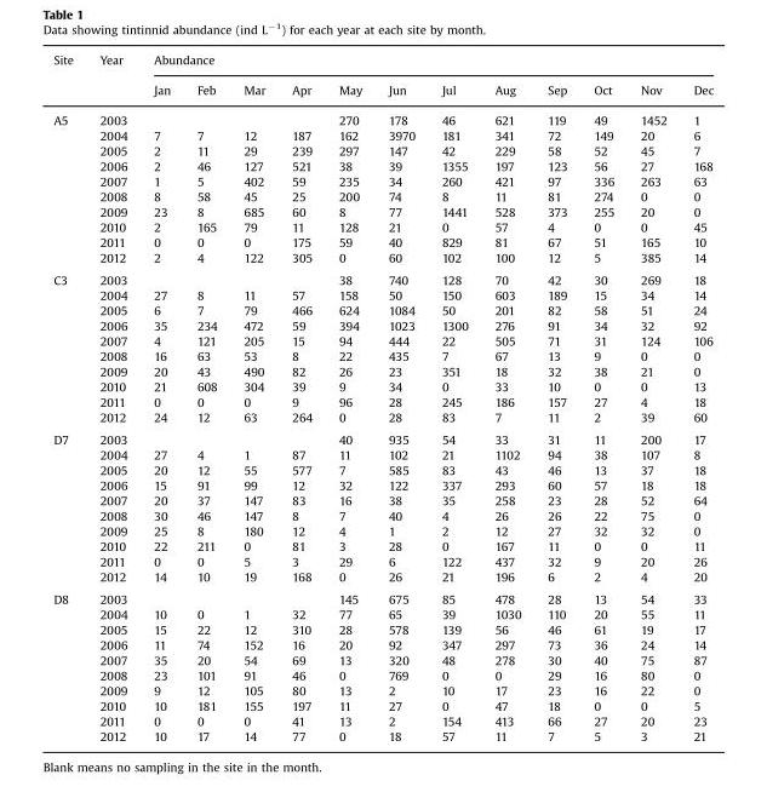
<table><thead><tr><td rowspan="2">Site</td><td rowspan="2">Year</td><td colspan="12">Abundance</td></tr><tr><td>Jan</td><td>Feb</td><td>Mar</td><td>Apr</td><td>May</td><td>Jun</td><td>Jul</td><td>Aug</td><td>Sep</td><td>Oct</td><td>Nov</td><td>Dec</td></tr></thead><tbody><tr><td rowspan="10">A5</td><td>2003</td><td></td><td></td><td></td><td></td><td>270</td><td>178</td><td>46</td><td>621</td><td>119</td><td>49</td><td>1452</td><td>1</td></tr><tr><td>2004</td><td>7</td><td>7</td><td>12</td><td>187</td><td>162</td><td>3970</td><td>181</td><td>341</td><td>72</td><td>149</td><td>20</td><td>6</td></tr><tr><td>2005</td><td>2</td><td>11</td><td>29</td><td>239</td><td>297</td><td>147</td><td>42</td><td>229</td><td>58</td><td>52</td><td>45</td><td>7</td></tr><tr><td>2006</td><td>2</td><td>46</td><td>127</td><td>521</td><td>38</td><td>39</td><td>1355</td><td>197</td><td>123</td><td>56</td><td>27</td><td>168</td></tr><tr><td>2007</td><td>1</td><td>5</td><td>402</td><td>59</td><td>235</td><td>34</td><td>260</td><td>421</td><td>97</td><td>336</td><td>263</td><td>63</td></tr><tr><td>2008</td><td>8</td><td>58</td><td>45</td><td>25</td><td>200</td><td>74</td><td>8</td><td>11</td><td>81</td><td>274</td><td>0</td><td>0</td></tr><tr><td>2009</td><td>23</td><td>8</td><td>685</td><td>60</td><td>8</td><td>77</td><td>1441</td><td>528</td><td>373</td><td>255</td><td>20</td><td>0</td></tr><tr><td>2010</td><td>2</td><td>165</td><td>79</td><td>11</td><td>128</td><td>21</td><td>0</td><td>57</td><td>4</td><td>0</td><td>0</td><td>45</td></tr><tr><td>2011</td><td>0</td><td>0</td><td>0</td><td>175</td><td>59</td><td>40</td><td>829</td><td>81</td><td>67</td><td>51</td><td>165</td><td>10</td></tr><tr><td>2012</td><td>2</td><td>4</td><td>122</td><td>305</td><td>0</td><td>60</td><td>102</td><td>100</td><td>12</td><td>5</td><td>385</td><td>14</td></tr><tr><td rowspan="10">C3</td><td>2003</td><td></td><td></td><td></td><td></td><td>38</td><td>740</td><td>128</td><td>70</td><td>42</td><td>30</td><td>269</td><td>18</td></tr><tr><td>2004</td><td>27</td><td>8</td><td>11</td><td>57</td><td>158</td><td>50</td><td>150</td><td>603</td><td>189</td><td>15</td><td>34</td><td>14</td></tr><tr><td>2005</td><td>6</td><td>7</td><td>79</td><td>466</td><td>624</td><td>1084</td><td>50</td><td>201</td><td>82</td><td>58</td><td>51</td><td>24</td></tr><tr><td>2006</td><td>35</td><td>234</td><td>472</td><td>59</td><td>394</td><td>1023</td><td>1300</td><td>276</td><td>91</td><td>34</td><td>32</td><td>92</td></tr><tr><td>2007</td><td>4</td><td>121</td><td>205</td><td>15</td><td>94</td><td>444</td><td>22</td><td>505</td><td>71</td><td>31</td><td>124</td><td>106</td></tr><tr><td>2008</td><td>16</td><td>63</td><td>53</td><td>8</td><td>22</td><td>435</td><td>7</td><td>67</td><td>13</td><td>9</td><td>0</td><td>0</td></tr><tr><td>2009</td><td>20</td><td>43</td><td>490</td><td>82</td><td>26</td><td>23</td><td>351</td><td>18</td><td>32</td><td>38</td><td>21</td><td>0</td></tr><tr><td>2010</td><td>21</td><td>608</td><td>304</td><td>39</td><td>9</td><td>34</td><td>0</td><td>33</td><td>10</td><td>0</td><td>0</td><td>13</td></tr><tr><td>2011</td><td>0</td><td>0</td><td>0</td><td>9</td><td>96</td><td>28</td><td>245</td><td>186</td><td>157</td><td>27</td><td>4</td><td>18</td></tr><tr><td>2012</td><td>24</td><td>12</td><td>63</td><td>264</td><td>0</td><td>28</td><td>83</td><td>7</td><td>11</td><td>2</td><td>39</td><td>60</td></tr><tr><td rowspan="10">D7</td><td>2003</td><td></td><td></td><td></td><td></td><td>40</td><td>935</td><td>54</td><td>33</td><td>31</td><td>11</td><td>200</td><td>17</td></tr><tr><td>2004</td><td>27</td><td>4</td><td>1</td><td>87</td><td>11</td><td>102</td><td>21</td><td>1102</td><td>94</td><td>38</td><td>107</td><td>8</td></tr><tr><td>2005</td><td>20</td><td>12</td><td>55</td><td>577</td><td>7</td><td>585</td><td>83</td><td>43</td><td>46</td><td>13</td><td>37</td><td>18</td></tr><tr><td>2006</td><td>15</td><td>91</td><td>99</td><td>12</td><td>32</td><td>122</td><td>337</td><td>293</td><td>60</td><td>57</td><td>18</td><td>18</td></tr><tr><td>2007</td><td>20</td><td>37</td><td>147</td><td>83</td><td>16</td><td>38</td><td>35</td><td>258</td><td>23</td><td>28</td><td>52</td><td>64</td></tr><tr><td>2008</td><td>30</td><td>46</td><td>147</td><td>8</td><td>7</td><td>40</td><td>4</td><td>26</td><td>26</td><td>22</td><td>75</td><td>0</td></tr><tr><td>2009</td><td>25</td><td>8</td><td>180</td><td>12</td><td>4</td><td>1</td><td>2</td><td>12</td><td>27</td><td>32</td><td>32</td><td>0</td></tr><tr><td>2010</td><td>22</td><td>211</td><td>0</td><td>81</td><td>3</td><td>28</td><td>0</td><td>167</td><td>11</td><td>0</td><td>0</td><td>11</td></tr><tr><td>2011</td><td>0</td><td>0</td><td>5</td><td>3</td><td>29</td><td>6</td><td>122</td><td>437</td><td>32</td><td>9</td><td>20</td><td>26</td></tr><tr><td>2012</td><td>14</td><td>10</td><td>19</td><td>168</td><td>0</td><td>26</td><td>21</td><td>196</td><td>6</td><td>2</td><td>4</td><td>20</td></tr><tr><td rowspan="10">D8</td><td>2003</td><td></td><td></td><td></td><td></td><td>145</td><td>675</td><td>85</td><td>478</td><td>28</td><td>13</td><td>54</td><td>33</td></tr><tr><td>2004</td><td>10</td><td>0</td><td>1</td><td>32</td><td>77</td><td>65</td><td>39</td><td>1030</td><td>110</td><td>20</td><td>55</td><td>11</td></tr><tr><td>2005</td><td>15</td><td>22</td><td>12</td><td>310</td><td>28</td><td>578</td><td>139</td><td>56</td><td>46</td><td>61</td><td>19</td><td>17</td></tr><tr><td>2006</td><td>11</td><td>74</td><td>152</td><td>16</td><td>20</td><td>92</td><td>347</td><td>297</td><td>73</td><td>36</td><td>24</td><td>14</td></tr><tr><td>2007</td><td>35</td><td>20</td><td>54</td><td>69</td><td>13</td><td>320</td><td>48</td><td>278</td><td>30</td><td>40</td><td>75</td><td>87</td></tr><tr><td>2008</td><td>23</td><td>101</td><td>91</td><td>46</td><td>0</td><td>769</td><td>0</td><td>0</td><td>29</td><td>16</td><td>80</td><td>0</td></tr><tr><td>2009</td><td>9</td><td>12</td><td>105</td><td>80</td><td>13</td><td>2</td><td>10</td><td>17</td><td>23</td><td>16</td><td>22</td><td>0</td></tr><tr><td>2010</td><td>10</td><td>181</td><td>155</td><td>197</td><td>11</td><td>27</td><td>0</td><td>47</td><td>18</td><td>0</td><td>0</td><td>5</td></tr><tr><td>2011</td><td>0</td><td>0</td><td>0</td><td>41</td><td>13</td><td>2</td><td>154</td><td>413</td><td>66</td><td>27</td><td>20</td><td>23</td></tr><tr><td>2012</td><td>10</td><td>17</td><td>14</td><td>77</td><td>0</td><td>18</td><td>57</td><td>11</td><td>7</td><td>5</td><td>3</td><td>21</td></tr></tbody></table>